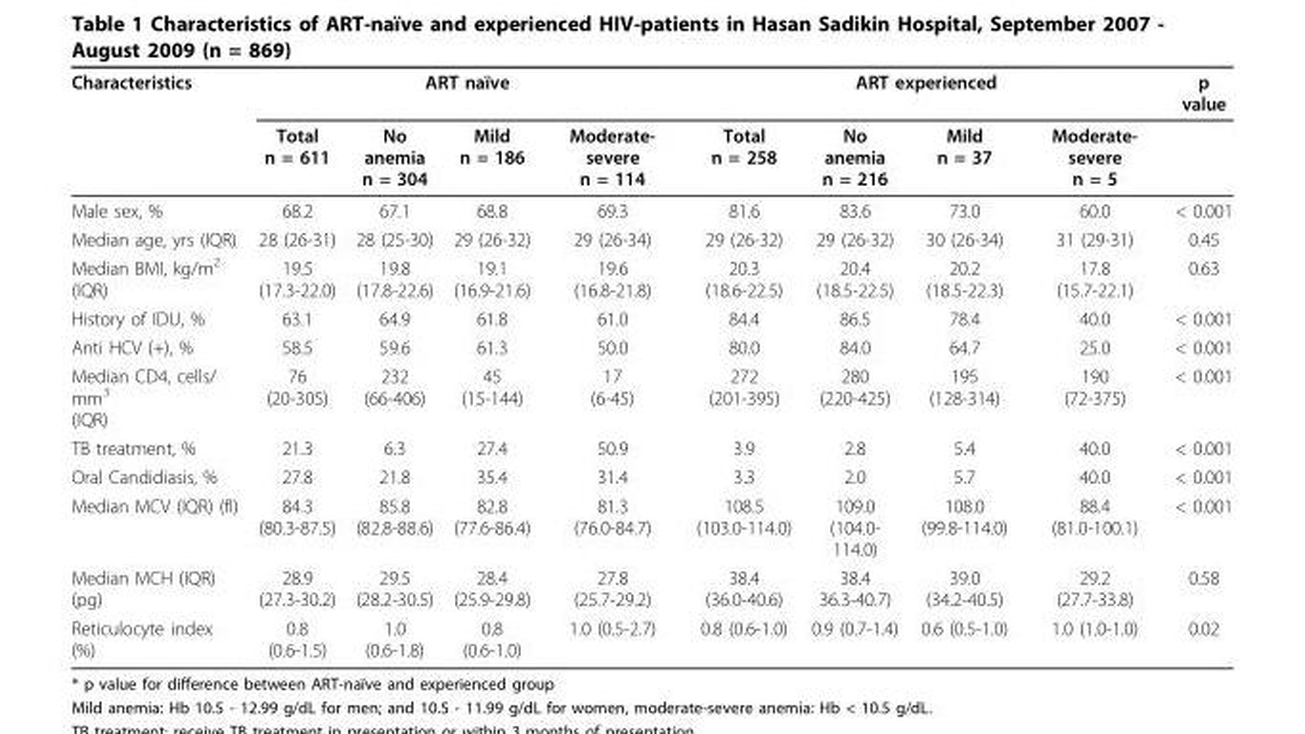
<table><thead><tr><td rowspan="2">Characteristics</td><td colspan="4">ART naïve</td><td colspan="4">ART experienced</td><td rowspan="2">p value</td></tr><tr><td>Total n = 611</td><td>No anemia n = 304</td><td>Mild n = 186</td><td>Moderate- severe n = 114</td><td>Total n = 258</td><td>No anemia n = 216</td><td>Mild n = 37</td><td>Moderate- severe n = 5</td></tr></thead><tbody><tr><td>Male sex, %</td><td>68.2</td><td>67.1</td><td>68.8</td><td>69.3</td><td>81.6</td><td>83.6</td><td>73.0</td><td>60.0</td><td>&lt; 0.001</td></tr><tr><td>Median age, yrs (IQR)</td><td>28 (26-31)</td><td>28 (25-30)</td><td>29 (26-32)</td><td>29 (26-34)</td><td>29 (26-32)</td><td>29 (26-32)</td><td>30 (26-34)</td><td>31 (29-31)</td><td>0.45</td></tr><tr><td>Median BMI, kg/m<sup>2</sup> (IQR)</td><td>19.5 (17.3-22.0)</td><td>19.8 (17.8-22.6)</td><td>19.1 (16.9-21.6)</td><td>19.6 (16.8-21.8)</td><td>20.3 (18.6-22.5)</td><td>20.4 (18.5-22.5)</td><td>20.2 (18.5-22.3)</td><td>17.8 (15.7-22.1)</td><td>0.63</td></tr><tr><td>History of IDU, %</td><td>63.1</td><td>64.9</td><td>61.8</td><td>61.0</td><td>84.4</td><td>86.5</td><td>78.4</td><td>40.0</td><td>&lt; 0.001</td></tr><tr><td>Anti HCV (+), %</td><td>58.5</td><td>59.6</td><td>61.3</td><td>50.0</td><td>80.0</td><td>84.0</td><td>64.7</td><td>25.0</td><td>&lt; 0.001</td></tr><tr><td>Median CD4, cells/ mm<sup>3</sup> (IQR)</td><td>76 (20-305)</td><td>232 (66-406)</td><td>45 (15-144)</td><td>17 (6-45)</td><td>272 (201-395)</td><td>280 (220-425)</td><td>195 (128-314)</td><td>190 (72-375)</td><td>&lt; 0.001</td></tr><tr><td>TB treatment, %</td><td>21.3</td><td>6.3</td><td>27.4</td><td>50.9</td><td>3.9</td><td>2.8</td><td>5.4</td><td>40.0</td><td>&lt; 0.001</td></tr><tr><td>Oral Candidiasis, %</td><td>27.8</td><td>21.8</td><td>35.4</td><td>31.4</td><td>3.3</td><td>2.0</td><td>5.7</td><td>40.0</td><td>&lt; 0.001</td></tr><tr><td>Median MCV (IQR) (fl)</td><td>84.3 (80.3-87.5)</td><td>85.8 (82.8-88.6)</td><td>82.8 (77.6-86.4)</td><td>81.3 (76.0-84.7)</td><td>108.5 (103.0-114.0)</td><td>109.0 (104.0- 114.0)</td><td>108.0 (99.8-114.0)</td><td>88.4 (81.0-100.1)</td><td>&lt; 0.001</td></tr><tr><td>Median MCH (IQR) (pg)</td><td>28.9 (27.3-30.2)</td><td>29.5 (28.2-30.5)</td><td>28.4 (25.9-29.8)</td><td>27.8 (25.7-29.2)</td><td>38.4 (36.0-40.6)</td><td>38.4 36.3-40.7)</td><td>39.0 (34.2-40.5)</td><td>29.2 (27.7-33.8)</td><td>0.58</td></tr><tr><td>Reticulocyte index (%)</td><td>0.8 (0.6-1.5)</td><td>1.0 (0.6-1.8)</td><td>0.8 (0.6-1.0)</td><td>1.0 (0.5-2.7)</td><td>0.8 (0.6-1.0)</td><td>0.9 (0.7-1.4)</td><td>0.6 (0.5-1.0)</td><td>1.0 (1.0-1.0)</td><td>0.02</td></tr></tbody></table>